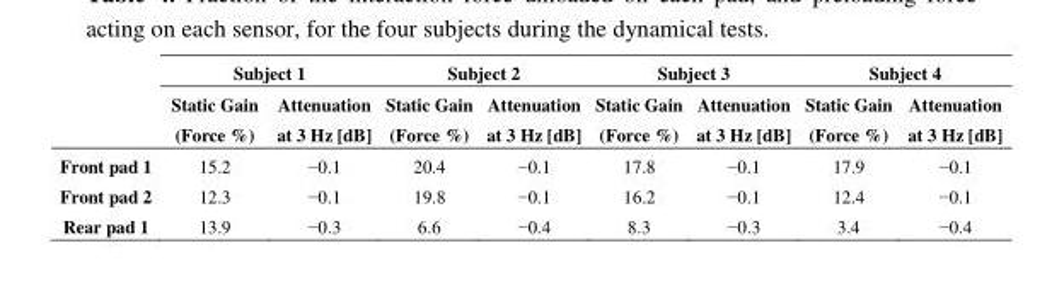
<table><thead><tr><td rowspan="2"></td><td colspan="2">Subject 1</td><td colspan="2">Subject 2</td><td colspan="2">Subject 3</td><td colspan="2">Subject 4</td></tr><tr><td>Static Gain (Force %)</td><td>Attenuation at 3 Hz [dB]</td><td>Static Gain (Force %)</td><td>Attenuation at 3 Hz [dB]</td><td>Static Gain (Force %)</td><td>Attenuation at 3 Hz [dB]</td><td>Static Gain (Force %)</td><td>Attenuation at 3 Hz [dB]</td></tr></thead><tbody><tr><td>Front pad 1</td><td>15.2</td><td>−0.1</td><td>20.4</td><td>−0.1</td><td>17.8</td><td>−0.1</td><td>17.9</td><td>−0.1</td></tr><tr><td>Front pad 2</td><td>12.3</td><td>−0.1</td><td>19.8</td><td>−0.1</td><td>16.2</td><td>−0.1</td><td>12.4</td><td>−0.1</td></tr><tr><td>Rear pad 1</td><td>13.9</td><td>−0.3</td><td>6.6</td><td>−0.4</td><td>8.3</td><td>−0.3</td><td>3.4</td><td>−0.4</td></tr></tbody></table>